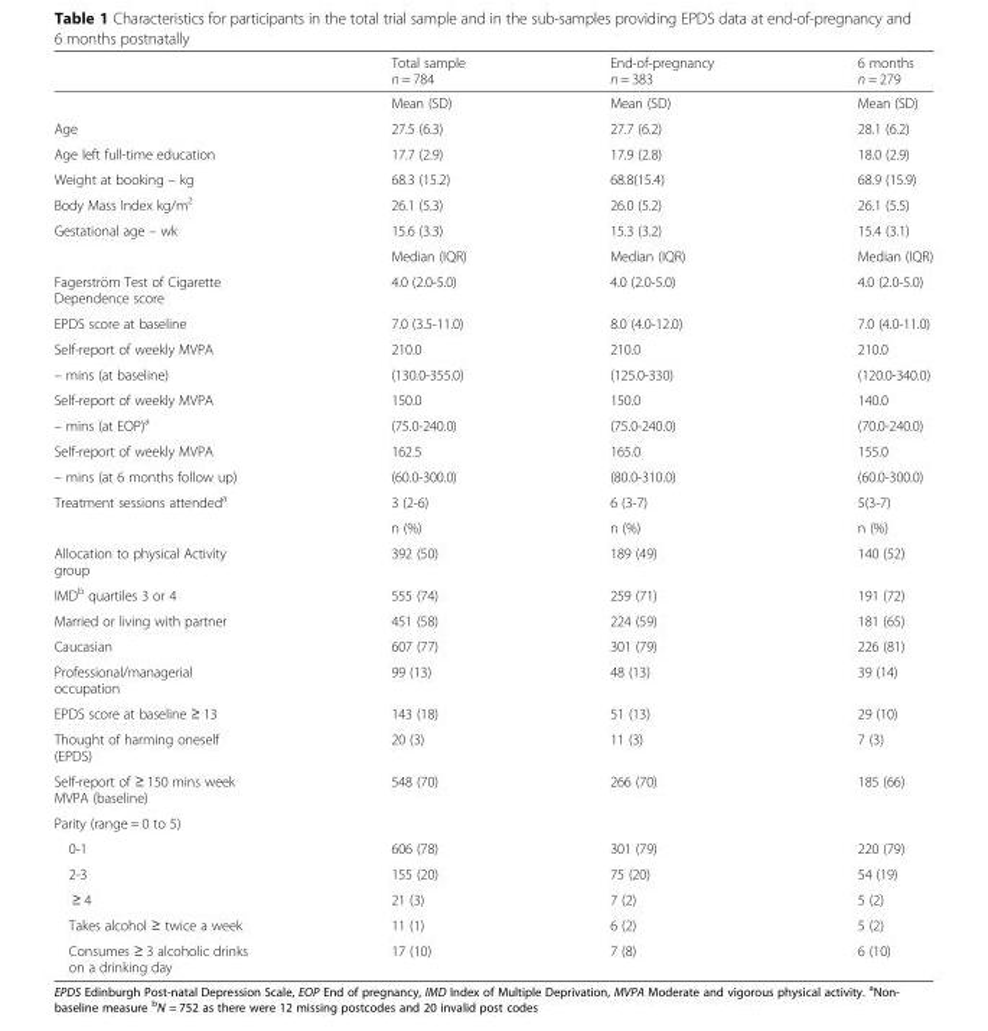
<table><thead><tr><td></td><td>Total sample n = 784</td><td>End-of-pregnancy n = 383</td><td>6 months n = 279</td></tr></thead><tbody><tr><td></td><td>Mean (SD)</td><td>Mean (SD)</td><td>Mean (SD)</td></tr><tr><td>Age</td><td>27.5 (6.3)</td><td>27.7 (6.2)</td><td>28.1 (6.2)</td></tr><tr><td>Age left full-time education</td><td>17.7 (2.9)</td><td>17.9 (2.8)</td><td>18.0 (2.9)</td></tr><tr><td>Weight at booking – kg</td><td>68.3 (15.2)</td><td>68.8(15.4)</td><td>68.9 (15.9)</td></tr><tr><td>Body Mass Index kg/m<sup>2</sup></td><td>26.1 (5.3)</td><td>26.0 (5.2)</td><td>26.1 (5.5)</td></tr><tr><td rowspan="2">Gestational age – wk</td><td>15.6 (3.3)</td><td>15.3 (3.2)</td><td>15.4 (3.1)</td></tr><tr><td>Median (IQR)</td><td>Median (IQR)</td><td>Median (IQR)</td></tr><tr><td>Fagerström Test of Cigarette Dependence score</td><td>4.0 (2.0-5.0)</td><td>4.0 (2.0-5.0)</td><td>4.0 (2.0-5.0)</td></tr><tr><td>EPDS score at baseline</td><td>7.0 (3.5-11.0)</td><td>8.0 (4.0-12.0)</td><td>7.0 (4.0-11.0)</td></tr><tr><td>Self-report of weekly MVPA</td><td>210.0</td><td>210.0</td><td>210.0</td></tr><tr><td>– mins (at baseline)</td><td>(130.0-355.0)</td><td>(125.0-330)</td><td>(120.0-340.0)</td></tr><tr><td>Self-report of weekly MVPA</td><td>150.0</td><td>150.0</td><td>140.0</td></tr><tr><td>– mins (at EOP)<sup>a</sup></td><td>(75.0-240.0)</td><td>(75.0-240.0)</td><td>(70.0-240.0)</td></tr><tr><td>Self-report of weekly MVPA</td><td>162.5</td><td>165.0</td><td>155.0</td></tr><tr><td>– mins (at 6 months follow up)</td><td>(60.0-300.0)</td><td>(80.0-310.0)</td><td>(60.0-300.0)</td></tr><tr><td rowspan="2">Treatment sessions attended<sup>a</sup></td><td>3 (2-6)</td><td>6 (3-7)</td><td>5(3-7)</td></tr><tr><td>n (%)</td><td>n (%)</td><td>n (%)</td></tr><tr><td>Allocation to physical Activity group</td><td>392 (50)</td><td>189 (49)</td><td>140 (52)</td></tr><tr><td>IMD<sup>b</sup> quartiles 3 or 4</td><td>555 (74)</td><td>259 (71)</td><td>191 (72)</td></tr><tr><td>Married or living with partner</td><td>451 (58)</td><td>224 (59)</td><td>181 (65)</td></tr><tr><td>Caucasian</td><td>607 (77)</td><td>301 (79)</td><td>226 (81)</td></tr><tr><td>Professional/managerial occupation</td><td>99 (13)</td><td>48 (13)</td><td>39 (14)</td></tr><tr><td>EPDS score at baseline ≥ 13</td><td>143 (18)</td><td>51 (13)</td><td>29 (10)</td></tr><tr><td>Thought of harming oneself (EPDS)</td><td>20 (3)</td><td>11 (3)</td><td>7 (3)</td></tr><tr><td>Self-report of ≥ 150 mins week MVPA (baseline)</td><td>548 (70)</td><td>266 (70)</td><td>185 (66)</td></tr><tr><td colspan="4">Parity (range = 0 to 5)</td></tr><tr><td>0-1</td><td>606 (78)</td><td>301 (79)</td><td>220 (79)</td></tr><tr><td>2-3</td><td>155 (20)</td><td>75 (20)</td><td>54 (19)</td></tr><tr><td>≥ 4</td><td>21 (3)</td><td>7 (2)</td><td>5 (2)</td></tr><tr><td>Takes alcohol ≥ twice a week</td><td>11 (1)</td><td>6 (2)</td><td>5 (2)</td></tr><tr><td>Consumes ≥ 3 alcoholic drinks on a drinking day</td><td>17 (10)</td><td>7 (8)</td><td>6 (10)</td></tr></tbody></table>